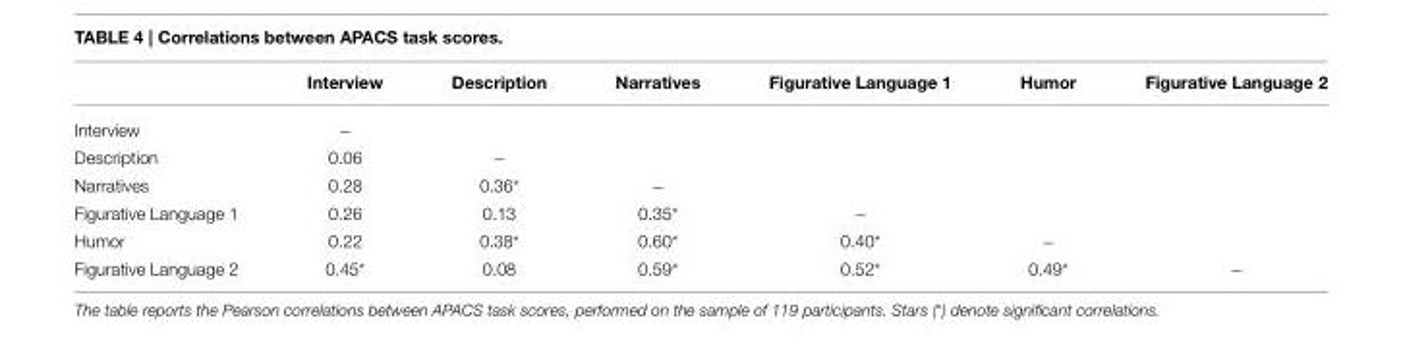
<table><thead><tr><td></td><td>Interview</td><td>Description</td><td>Narratives</td><td>Figurative Language 1</td><td>Humor</td><td>Figurative Language 2</td></tr></thead><tbody><tr><td>Interview</td><td>−</td><td></td><td></td><td></td><td></td><td></td></tr><tr><td>Description</td><td>0.06</td><td>−</td><td></td><td></td><td></td><td></td></tr><tr><td>Narratives</td><td>0.28</td><td>0.36*</td><td>−</td><td></td><td></td><td></td></tr><tr><td>Figurative Language 1</td><td>0.26</td><td>0.13</td><td>0.35*</td><td>−</td><td></td><td></td></tr><tr><td>Humor</td><td>0.22</td><td>0.38*</td><td>0.60*</td><td>0.40*</td><td>−</td><td></td></tr><tr><td>Figurative Language 2</td><td>0.45*</td><td>0.08</td><td>0.59*</td><td>0.52*</td><td>0.49*</td><td>−</td></tr></tbody></table>